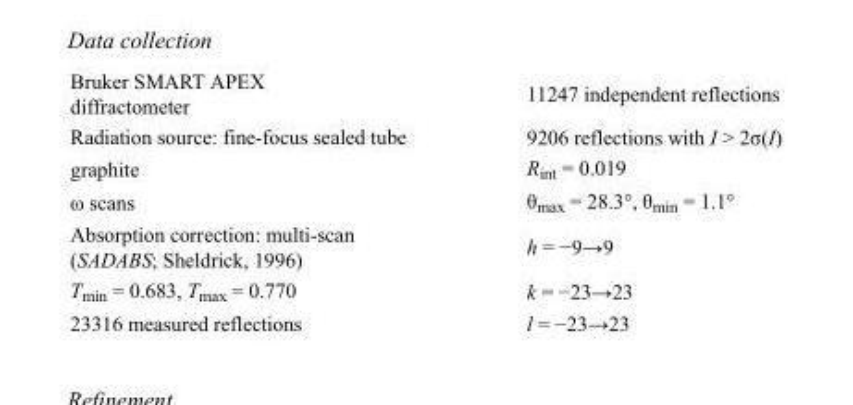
<table><tbody><tr><td>Bruker SMART APEX diffractometer</td><td>11247 independent reflections</td></tr><tr><td>Radiation source: fine-focus sealed tube</td><td>9206 reflections with I &gt; 2σ(I)</td></tr><tr><td>graphite</td><td>R<sub>int</sub> = 0.019</td></tr><tr><td>ω scans</td><td>θ<sub>max</sub> = 28.3°, θ<sub>min</sub> = 1.1°</td></tr><tr><td>Absorption correction: multi-scan (SADABS; Sheldrick, 1996)</td><td>h = −9→9</td></tr><tr><td>T<sub>min</sub> = 0.683, T<sub>max</sub> = 0.770</td><td>k = −23→23</td></tr><tr><td>23316 measured reflections</td><td>l = −23→23</td></tr></tbody></table>